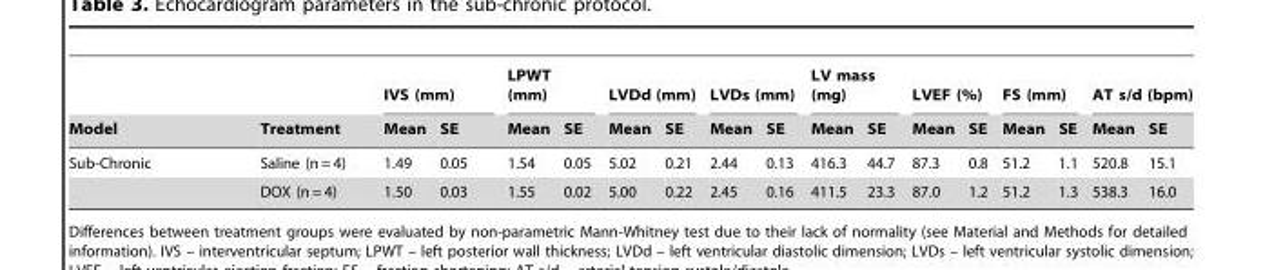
<table><thead><tr><td rowspan="2">Model</td><td rowspan="2">Treatment</td><td colspan="2">IVS (mm)</td><td colspan="2">LPWT (mm)</td><td colspan="2">LVDd (mm)</td><td colspan="2">LVDs (mm)</td><td colspan="2">LV mass (mg)</td><td colspan="2">LVEF (%)</td><td colspan="2">FS (mm)</td><td colspan="2">AT s/d (bpm)</td></tr><tr><td>Mean</td><td>SE</td><td>Mean</td><td>SE</td><td>Mean</td><td>SE</td><td>Mean</td><td>SE</td><td>Mean</td><td>SE</td><td>Mean</td><td>SE</td><td>Mean</td><td>SE</td><td>Mean</td><td>SE</td></tr></thead><tbody><tr><td rowspan="2">Sub-Chronic</td><td>Saline (n = 4)</td><td>1.49</td><td>0.05</td><td>1.54</td><td>0.05</td><td>5.02</td><td>0.21</td><td>2.44</td><td>0.13</td><td>416.3</td><td>44.7</td><td>87.3</td><td>0.8</td><td>51.2</td><td>1.1</td><td>520.8</td><td>15.1</td></tr><tr><td>DOX (n = 4)</td><td>1.50</td><td>0.03</td><td>1.55</td><td>0.02</td><td>5.00</td><td>0.22</td><td>2.45</td><td>0.16</td><td>411.5</td><td>23.3</td><td>87.0</td><td>1.2</td><td>51.2</td><td>1.3</td><td>538.3</td><td>16.0</td></tr></tbody></table>